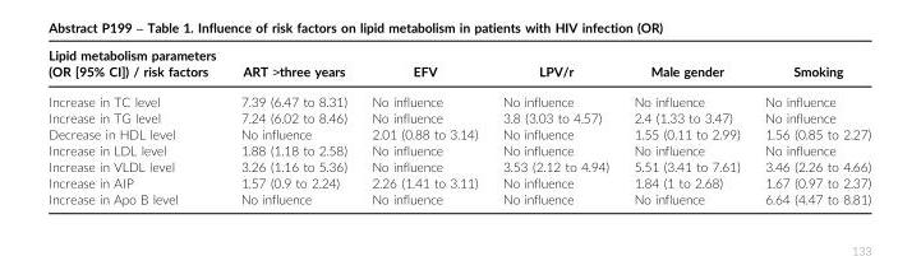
<table><thead><tr><td>Lipid metabolism parameters (OR [95% CI]) / risk factors</td><td>ART &gt;three years</td><td>EFV</td><td>LPV/r</td><td>Male gender</td><td>Smoking</td></tr></thead><tbody><tr><td>Increase in TC level</td><td>7.39 (6.47 to 8.31)</td><td>No influence</td><td>No influence</td><td>No influence</td><td>No influence</td></tr><tr><td>Increase in TG level</td><td>7.24 (6.02 to 8.46)</td><td>No influence</td><td>3.8 (3.03 to 4.57)</td><td>2.4 (1.33 to 3.47)</td><td>No influence</td></tr><tr><td>Decrease in HDL level</td><td>No influence</td><td>2.01 (0.88 to 3.14)</td><td>No influence</td><td>1.55 (0.11 to 2.99)</td><td>1.56 (0.85 to 2.27)</td></tr><tr><td>Increase in LDL level</td><td>1.88 (1.18 to 2.58)</td><td>No influence</td><td>No influence</td><td>No influence</td><td>No influence</td></tr><tr><td>Increase in VLDL level</td><td>3.26 (1.16 to 5.36)</td><td>No influence</td><td>3.53 (2.12 to 4.94)</td><td>5.51 (3.41 to 7.61)</td><td>3.46 (2.26 to 4.66)</td></tr><tr><td>Increase in AIP</td><td>1.57 (0.9 to 2.24)</td><td>2.26 (1.41 to 3.11)</td><td>No influence</td><td>1.84 (1 to 2.68)</td><td>1.67 (0.97 to 2.37)</td></tr><tr><td>Increase in Apo B level</td><td>No influence</td><td>No influence</td><td>No influence</td><td>No influence</td><td>6.64 (4.47 to 8.81)</td></tr></tbody></table>